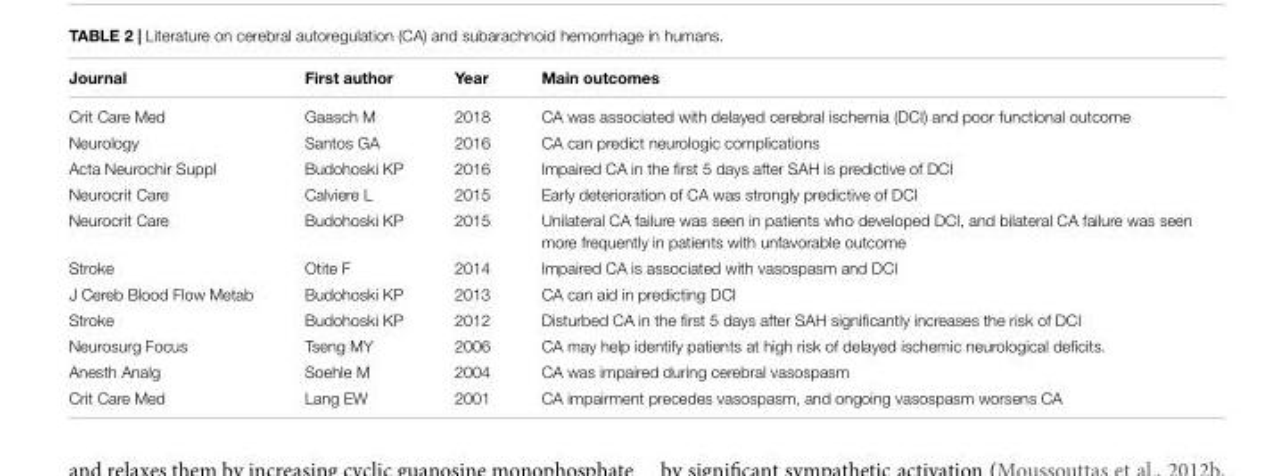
<table><thead><tr><td>Journal</td><td>First author</td><td>Year</td><td>Main outcomes</td></tr></thead><tbody><tr><td>Crit Care Med</td><td>Gaasch M</td><td>2018</td><td>CA was associated with delayed cerebral ischemia (DCI) and poor functional outcome</td></tr><tr><td>Neurology</td><td>Santos GA</td><td>2016</td><td>CA can predict neurologic complications</td></tr><tr><td>Acta Neurochir Suppl</td><td>Budohoski KP</td><td>2016</td><td>Impaired CA in the first 5 days after SAH is predictive of DCI</td></tr><tr><td>Neurocrit Care</td><td>Calviere L</td><td>2015</td><td>Early deterioration of CA was strongly predictive of DCI</td></tr><tr><td>Neurocrit Care</td><td>Budohoski KP</td><td>2015</td><td>Unilateral CA failure was seen in patients who developed DCI, and bilateral CA failure was seen more frequently in patients with unfavorable outcome</td></tr><tr><td>Stroke</td><td>Otite F</td><td>2014</td><td>Impaired CA is associated with vasospasm and DCI</td></tr><tr><td>J Cereb Blood Flow Metab</td><td>Budohoski KP</td><td>2013</td><td>CA can aid in predicting DCI</td></tr><tr><td>Stroke</td><td>Budohoski KP</td><td>2012</td><td>Disturbed CA in the first 5 days after SAH significantly increases the risk of DCI</td></tr><tr><td>Neurosurg Focus</td><td>Tseng MY</td><td>2006</td><td>CA may help identify patients at high risk of delayed ischemic neurological deficits.</td></tr><tr><td>Anesth Analg</td><td>Soehle M</td><td>2004</td><td>CA was impaired during cerebral vasospasm</td></tr><tr><td>Crit Care Med</td><td>Lang EW</td><td>2001</td><td>CA impairment precedes vasospasm, and ongoing vasospasm worsens CA</td></tr></tbody></table>